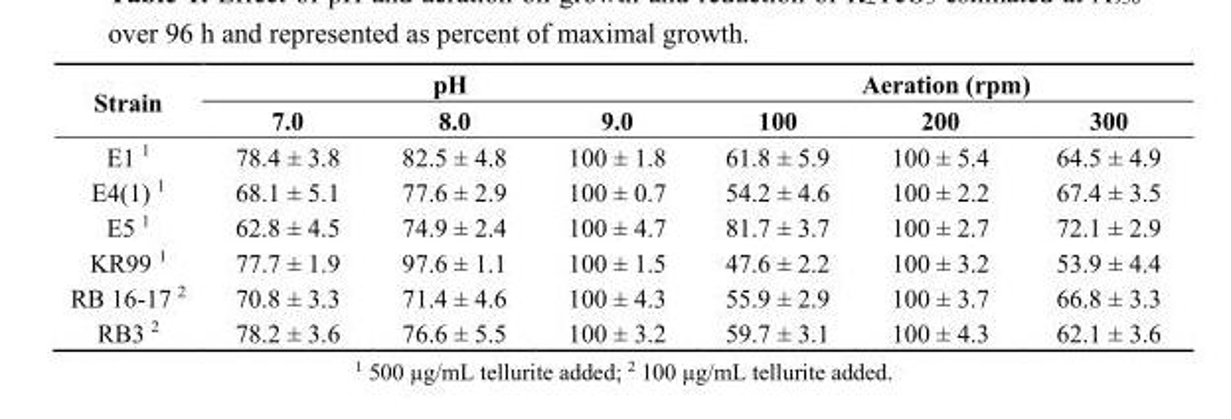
<table><thead><tr><td rowspan="2">Strain</td><td colspan="3">pH</td><td colspan="3">Aeration (rpm)</td></tr><tr><td>7.0</td><td>8.0</td><td>9.0</td><td>100</td><td>200</td><td>300</td></tr></thead><tbody><tr><td>E1 <sup>1</sup></td><td>78.4 ± 3.8</td><td>82.5 ± 4.8</td><td>100 ± 1.8</td><td>61.8 ± 5.9</td><td>100 ± 5.4</td><td>64.5 ± 4.9</td></tr><tr><td>E4(1) <sup>1</sup></td><td>68.1 ± 5.1</td><td>77.6 ± 2.9</td><td>100 ± 0.7</td><td>54.2 ± 4.6</td><td>100 ± 2.2</td><td>67.4 ± 3.5</td></tr><tr><td>E5 <sup>1</sup></td><td>62.8 ± 4.5</td><td>74.9 ± 2.4</td><td>100 ± 4.7</td><td>81.7 ± 3.7</td><td>100 ± 2.7</td><td>72.1 ± 2.9</td></tr><tr><td>KR99 <sup>1</sup></td><td>77.7 ± 1.9</td><td>97.6 ± 1.1</td><td>100 ± 1.5</td><td>47.6 ± 2.2</td><td>100 ± 3.2</td><td>53.9 ± 4.4</td></tr><tr><td>RB 16-17 <sup>2</sup></td><td>70.8 ± 3.3</td><td>71.4 ± 4.6</td><td>100 ± 4.3</td><td>55.9 ± 2.9</td><td>100 ± 3.7</td><td>66.8 ± 3.3</td></tr><tr><td>RB3 <sup>2</sup></td><td>78.2 ± 3.6</td><td>76.6 ± 5.5</td><td>100 ± 3.2</td><td>59.7 ± 3.1</td><td>100 ± 4.3</td><td>62.1 ± 3.6</td></tr></tbody></table>